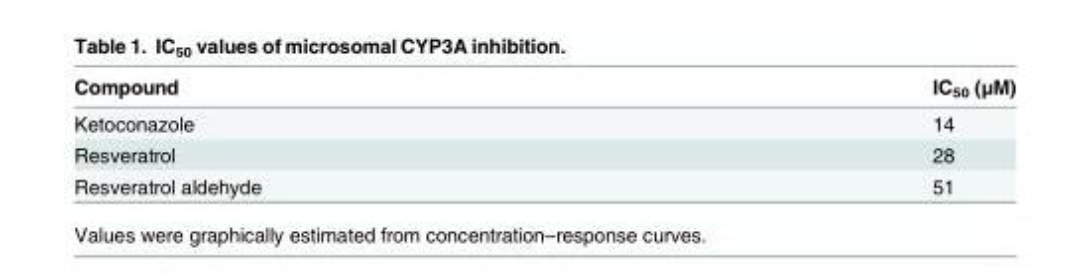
<table><thead><tr><td>Compound</td><td>IC<sub>50</sub> (μM)</td></tr></thead><tbody><tr><td>Ketoconazole</td><td>14</td></tr><tr><td>Resveratrol</td><td>28</td></tr><tr><td>Resveratrol aldehyde</td><td>51</td></tr></tbody></table>